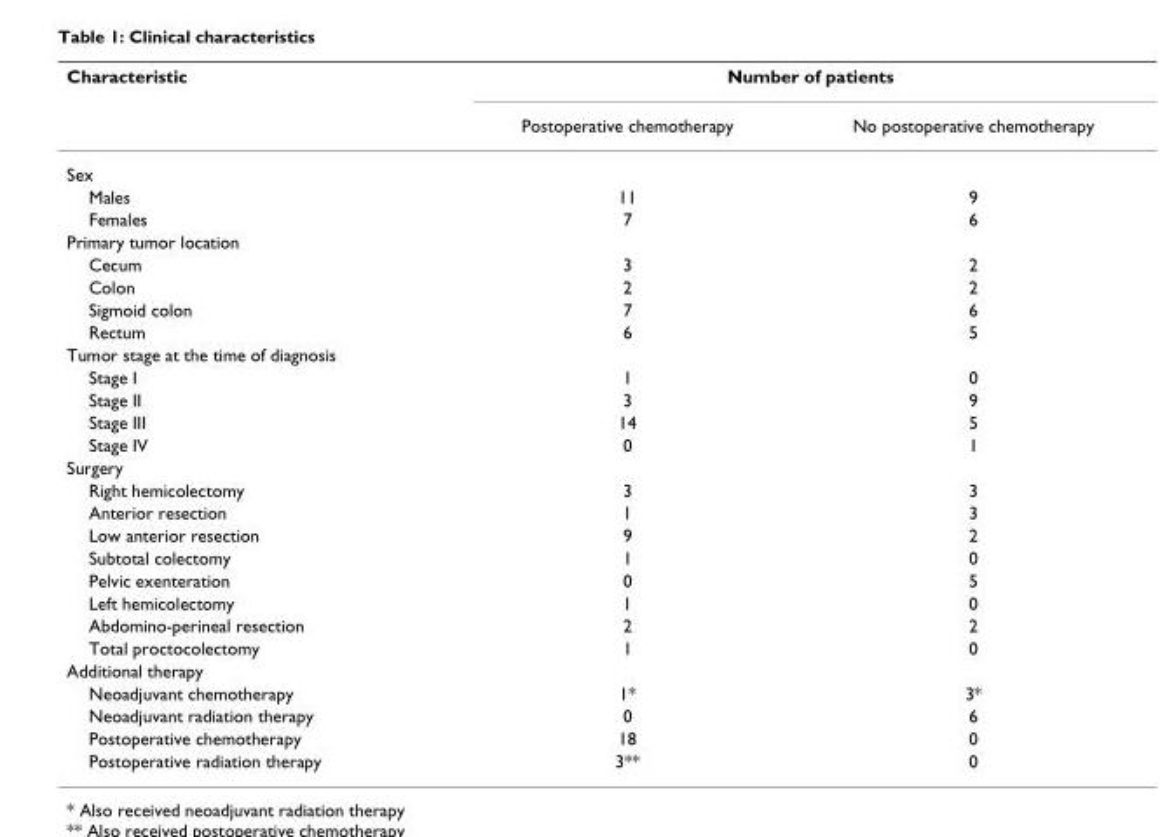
<table><thead><tr><td rowspan="2">Characteristic</td><td colspan="2">Number of patients</td></tr><tr><td>Postoperative chemotherapy</td><td>No postoperative chemotherapy</td></tr></thead><tbody><tr><td colspan="3">Sex</td></tr><tr><td>Males</td><td>11</td><td>9</td></tr><tr><td>Females</td><td>7</td><td>6</td></tr><tr><td colspan="3">Primary tumor location</td></tr><tr><td>Cecum</td><td>3</td><td>2</td></tr><tr><td>Colon</td><td>2</td><td>2</td></tr><tr><td>Sigmoid colon</td><td>7</td><td>6</td></tr><tr><td>Rectum</td><td>6</td><td>5</td></tr><tr><td colspan="3">Tumor stage at the time of diagnosis</td></tr><tr><td>Stage I</td><td>1</td><td>0</td></tr><tr><td>Stage II</td><td>3</td><td>9</td></tr><tr><td>Stage III</td><td>14</td><td>5</td></tr><tr><td>Stage IV</td><td>0</td><td>1</td></tr><tr><td colspan="3">Surgery</td></tr><tr><td>Right hemicolectomy</td><td>3</td><td>3</td></tr><tr><td>Anterior resection</td><td>1</td><td>3</td></tr><tr><td>Low anterior resection</td><td>9</td><td>2</td></tr><tr><td>Subtotal colectomy</td><td>1</td><td>0</td></tr><tr><td>Pelvic exenteration</td><td>0</td><td>5</td></tr><tr><td>Left hemicolectomy</td><td>1</td><td>0</td></tr><tr><td>Abdomino-perineal resection</td><td>2</td><td>2</td></tr><tr><td>Total proctocolectomy</td><td>1</td><td>0</td></tr><tr><td colspan="3">Additional therapy</td></tr><tr><td>Neoadjuvant chemotherapy</td><td>1*</td><td>3*</td></tr><tr><td>Neoadjuvant radiation therapy</td><td>0</td><td>6</td></tr><tr><td>Postoperative chemotherapy</td><td>18</td><td>0</td></tr><tr><td>Postoperative radiation therapy</td><td>3**</td><td>0</td></tr></tbody></table>